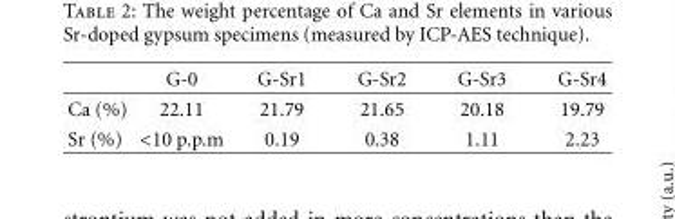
<table><thead><tr><td></td><td>G-0</td><td>G-Sr1</td><td>G-Sr2</td><td>G-Sr3</td><td>G-Sr4</td></tr></thead><tbody><tr><td>Ca (%)</td><td>22.11</td><td>21.79</td><td>21.65</td><td>20.18</td><td>19.79</td></tr><tr><td>Sr (%)</td><td>&lt;10 p.p.m</td><td>0.19</td><td>0.38</td><td>1.11</td><td>2.23</td></tr></tbody></table>